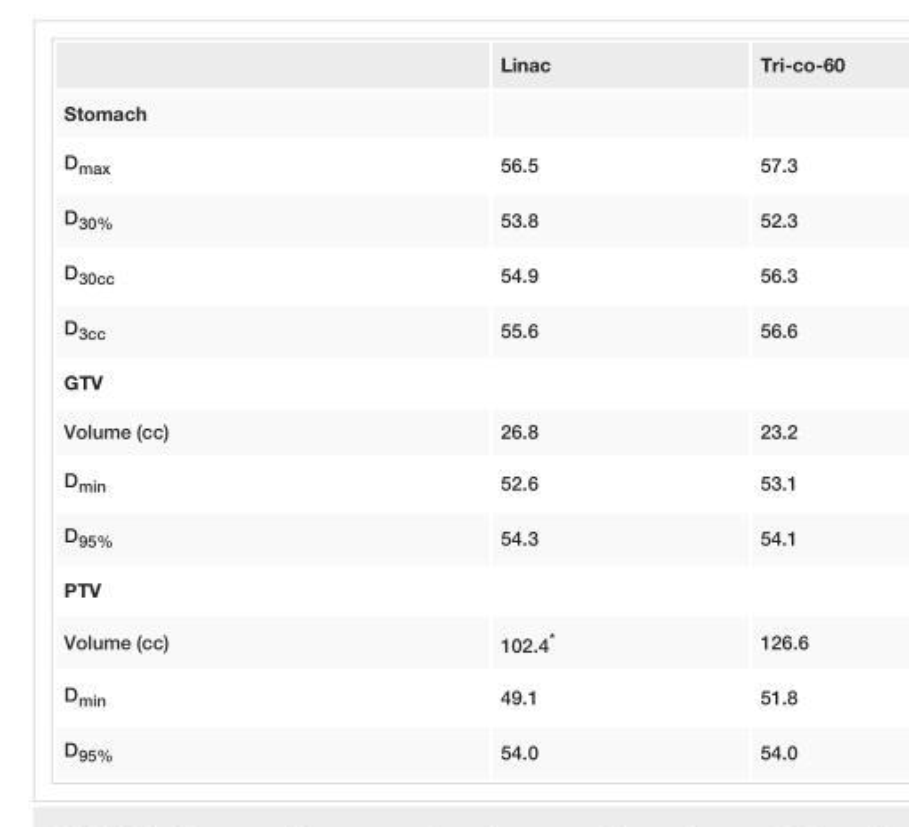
<table><thead><tr><td></td><td>Linac</td><td>Tri-co-60</td></tr></thead><tbody><tr><td colspan="3">Stomach</td></tr><tr><td>D<sub>max</sub></td><td>56.5</td><td>57.3</td></tr><tr><td>D<sub>30%</sub></td><td>53.8</td><td>52.3</td></tr><tr><td>D<sub>30cc</sub></td><td>54.9</td><td>56.3</td></tr><tr><td>D<sub>3cc</sub></td><td>55.6</td><td>56.6</td></tr><tr><td colspan="3">GTV</td></tr><tr><td>Volume (cc)</td><td>26.8</td><td>23.2</td></tr><tr><td>D<sub>min</sub></td><td>52.6</td><td>53.1</td></tr><tr><td>D<sub>95%</sub></td><td>54.3</td><td>54.1</td></tr><tr><td colspan="3">PTV</td></tr><tr><td>Volume (cc)</td><td>102.4*</td><td>126.6</td></tr><tr><td>D<sub>min</sub></td><td>49.1</td><td>51.8</td></tr><tr><td>D<sub>95%</sub></td><td>54.0</td><td>54.0</td></tr></tbody></table>